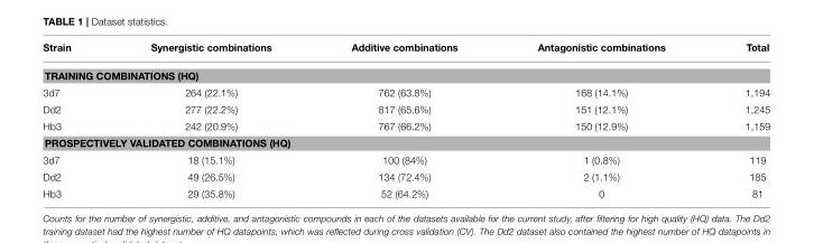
<table><thead><tr><td>Strain</td><td>Synergistic combinations</td><td>Additive combinations</td><td>Antagonistic combinations</td><td>Total</td></tr></thead><tbody><tr><td colspan="5">TRAINING COMBINATIONS (HQ)</td></tr><tr><td>3d7</td><td>264 (22.1%)</td><td>762 (63.8%)</td><td>168 (14.1%)</td><td>1,194</td></tr><tr><td>Dd2</td><td>277 (22.2%)</td><td>817 (65.6%)</td><td>151 (12.1%)</td><td>1,245</td></tr><tr><td>Hb3</td><td>242 (20.9%)</td><td>767 (66.2%)</td><td>150 (12.9%)</td><td>1,159</td></tr><tr><td colspan="5">PROSPECTIVELY VALIDATED COMBINATIONS (HQ)</td></tr><tr><td>3d7</td><td>18 (15.1%)</td><td>100 (84%)</td><td>1 (0.8%)</td><td>119</td></tr><tr><td>Dd2</td><td>49 (26.5%)</td><td>134 (72.4%)</td><td>2 (1.1%)</td><td>185</td></tr><tr><td>Hb3</td><td>29 (35.8%)</td><td>52 (64.2%)</td><td>0</td><td>81</td></tr></tbody></table>